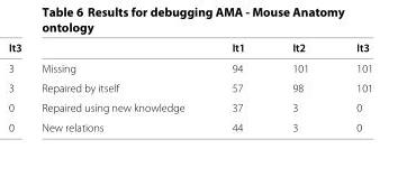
<table><thead><tr><td></td><td>It1</td><td>It2</td><td>It3</td></tr></thead><tbody><tr><td>Missing</td><td>94</td><td>101</td><td>101</td></tr><tr><td>Repaired by itself</td><td>57</td><td>98</td><td>101</td></tr><tr><td>Repaired using new knowledge</td><td>37</td><td>3</td><td>0</td></tr><tr><td>New relations</td><td>44</td><td>3</td><td>0</td></tr></tbody></table>